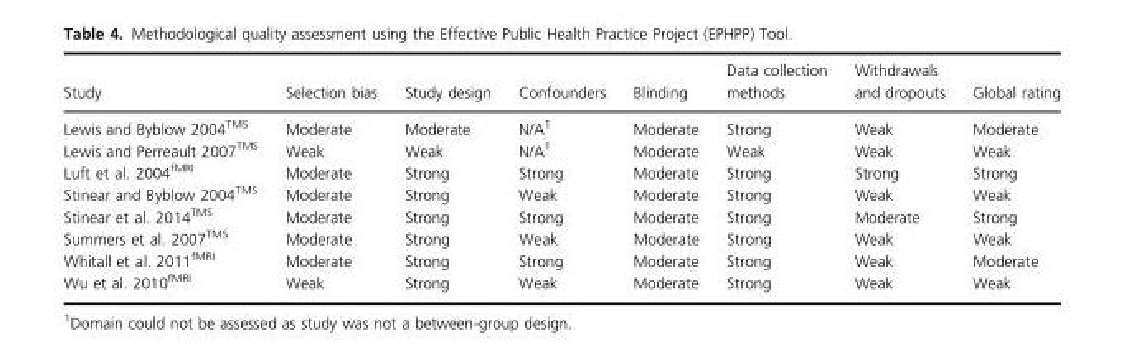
<table><thead><tr><td>Study</td><td>Selection bias</td><td>Study design</td><td>Confounders</td><td>Blinding</td><td>Data collection methods</td><td>Withdrawals and dropouts</td><td>Global rating</td></tr></thead><tbody><tr><td>Lewis and Byblow 2004<sup>TMS</sup></td><td>Moderate</td><td>Moderate</td><td>N/A1</td><td>Moderate</td><td>Strong</td><td>Weak</td><td>Moderate</td></tr><tr><td>Lewis and Perreault 2007<sup>TMS</sup></td><td>Weak</td><td>Weak</td><td>N/A1</td><td>Moderate</td><td>Weak</td><td>Weak</td><td>Weak</td></tr><tr><td>Luft et al. 2004<sup>fMRI</sup></td><td>Moderate</td><td>Strong</td><td>Strong</td><td>Moderate</td><td>Strong</td><td>Strong</td><td>Strong</td></tr><tr><td>Stinear and Byblow 2004<sup>TMS</sup></td><td>Moderate</td><td>Strong</td><td>Weak</td><td>Moderate</td><td>Strong</td><td>Weak</td><td>Weak</td></tr><tr><td>Stinear et al. 2014<sup>TMS</sup> Summers et al. 2007<sup>TMS</sup></td><td>Moderate Moderate</td><td>Strong Strong</td><td>Strong Weak</td><td>Moderate Moderate</td><td>Strong Strong</td><td>Moderate Weak</td><td>Strong Weak</td></tr><tr><td>Whitall et al. 2011<sup>fMRI</sup></td><td>Moderate</td><td>Strong</td><td>Strong</td><td>Moderate</td><td>Strong</td><td>Weak</td><td>Moderate</td></tr><tr><td>Wu et al. 2010<sup>fMRI</sup></td><td>Weak</td><td>Strong</td><td>Weak</td><td>Moderate</td><td>Strong</td><td>Weak</td><td>Weak</td></tr></tbody></table>